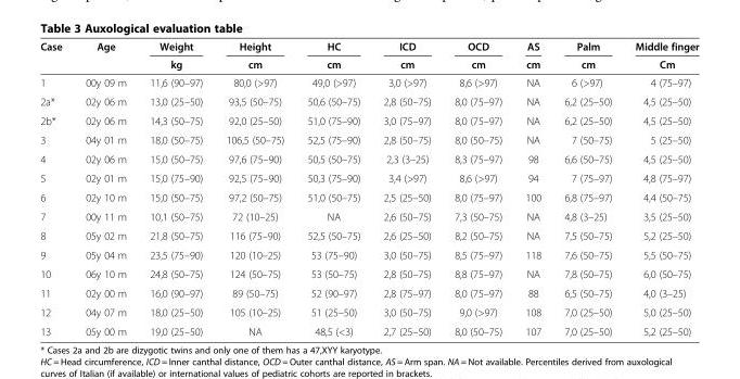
<table><thead><tr><td rowspan="2">Case</td><td rowspan="2">Age</td><td rowspan="2">Weight kg</td><td rowspan="2">Height cm</td><td rowspan="2">HC cm</td><td rowspan="2">ICD cm</td><td rowspan="2">OCD cm</td><td rowspan="2">AS cm</td><td rowspan="2">Palm cm</td><td rowspan="2">Middle finger Cm</td></tr><tr></tr></thead><tbody><tr><td>1</td><td>00y 09 m</td><td>11,6 (90–97)</td><td>80,0 (&gt;97)</td><td>49,0 (&gt;97)</td><td>3,0 (&gt;97)</td><td>8,6 (&gt;97)</td><td>NA</td><td>6 (&gt;97)</td><td>4 (75–97)</td></tr><tr><td>2a*</td><td>02y 06 m</td><td>13,0 (25–50)</td><td>93,5 (50–75)</td><td>50,6 (50–75)</td><td>2,8 (50–75)</td><td>8,0 (75–97)</td><td>NA</td><td>6,2 (25–50)</td><td>4,5 (25–50)</td></tr><tr><td>2b*</td><td>02y 06 m</td><td>14,3 (50–75)</td><td>92,0 (25–50)</td><td>51,0 (75–90)</td><td>3,0 (75–97)</td><td>8,0 (75–97)</td><td>NA</td><td>6,2 (25–50)</td><td>4,5 (25–50)</td></tr><tr><td>3</td><td>04y 01 m</td><td>18,0 (50–75)</td><td>106,5 (50–75)</td><td>52,5 (75–90)</td><td>2,8 (50–75)</td><td>8,0 (50–75)</td><td>NA</td><td>7 (50–75)</td><td>5 (25–50)</td></tr><tr><td>4</td><td>02y 06 m</td><td>15,0 (50–75)</td><td>97,6 (75–90)</td><td>50,5 (50–75)</td><td>2,3 (3–25)</td><td>8,3 (75–97)</td><td>98</td><td>6,6 (50–75)</td><td>4,5 (25–50)</td></tr><tr><td>5</td><td>02y 01 m</td><td>15,0 (75–90)</td><td>92,5 (75–90)</td><td>50,3 (75–90)</td><td>3,4 (&gt;97)</td><td>8,6 (&gt;97)</td><td>94</td><td>7 (75–97)</td><td>4,8 (75–97)</td></tr><tr><td>6</td><td>02y 10 m</td><td>15,0 (50–75)</td><td>97,2 (50–75)</td><td>51,0 (50–75)</td><td>2,5 (25–50)</td><td>8,0 (75–97)</td><td>100</td><td>6,8 (75–97)</td><td>4,4 (50–75)</td></tr><tr><td>7</td><td>00y 11 m</td><td>10,1 (50–75)</td><td>72 (10–25)</td><td>NA</td><td>2,6 (50–75)</td><td>7,3 (50–75)</td><td>NA</td><td>4,8 (3–25)</td><td>3,5 (25–50)</td></tr><tr><td>8</td><td>05y 02 m</td><td>21,8 (50–75)</td><td>116 (75–90)</td><td>52,5 (50–75)</td><td>2,6 (25–50)</td><td>8,2 (50–75)</td><td>NA</td><td>7,5 (50–75)</td><td>5,2 (25–50)</td></tr><tr><td>9</td><td>05y 04 m</td><td>23,5 (75–90)</td><td>120 (10–25)</td><td>53 (75–90)</td><td>3,0 (50–75)</td><td>8,5 (75–97)</td><td>118</td><td>7,6 (50–75)</td><td>5,5 (50–75)</td></tr><tr><td>10</td><td>06y 10 m</td><td>24,8 (50–75)</td><td>124 (50–75)</td><td>53 (50–75)</td><td>2,8 (50–75)</td><td>8,8 (75–97)</td><td>NA</td><td>7,8 (50–75)</td><td>6,0 (50–75)</td></tr><tr><td>11</td><td>02y 00 m</td><td>16,0 (90–97)</td><td>89 (50–75)</td><td>52 (90–97)</td><td>2,8 (75–97)</td><td>8,0 (75–97)</td><td>88</td><td>6,5 (50–75)</td><td>4,0 (3–25)</td></tr><tr><td>12</td><td>04y 07 m</td><td>18,0 (25–50)</td><td>105 (10–25)</td><td>51 (25–50)</td><td>3,0 (50–75)</td><td>9,0 (&gt;97)</td><td>108</td><td>7,0 (25–50)</td><td>5,0 (25–50)</td></tr><tr><td>13</td><td>05y 00 m</td><td>19,0 (25–50)</td><td>NA</td><td>48,5 (&lt;3)</td><td>2,7 (25–50)</td><td>8,0 (50–75)</td><td>107</td><td>7,0 (25–50)</td><td>5,2 (25–50)</td></tr></tbody></table>